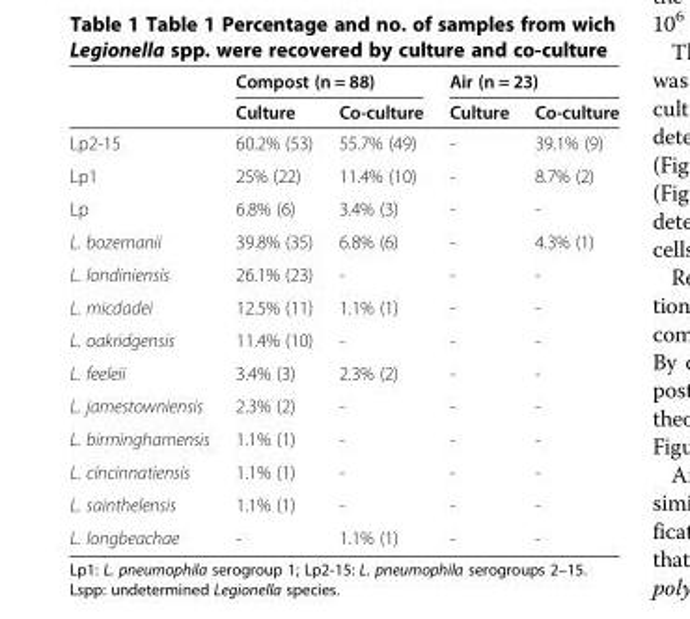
<table><thead><tr><td rowspan="2"></td><td colspan="2">Compost (n = 88)</td><td colspan="2">Air (n = 23)</td></tr><tr><td>Culture</td><td>Co-culture</td><td>Culture</td><td>Co-culture</td></tr></thead><tbody><tr><td>Lp2-15</td><td>60.2% (53)</td><td>55.7% (49)</td><td>-</td><td>39.1% (9)</td></tr><tr><td>Lp1</td><td>25% (22)</td><td>11.4% (10)</td><td>-</td><td>8.7% (2)</td></tr><tr><td>Lp</td><td>6.8% (6)</td><td>3.4% (3)</td><td>-</td><td>-</td></tr><tr><td>L. bozemanii</td><td>39.8% (35)</td><td>6.8% (6)</td><td>-</td><td>4.3% (1)</td></tr><tr><td>L. londiniensis</td><td>26.1% (23)</td><td>-</td><td>-</td><td>-</td></tr><tr><td>L. micdadei</td><td>12.5% (11)</td><td>1.1% (1)</td><td>-</td><td>-</td></tr><tr><td>L. oakridgensis</td><td>11.4% (10)</td><td>-</td><td>-</td><td>-</td></tr><tr><td>L. feeleii</td><td>3.4% (3)</td><td>2.3% (2)</td><td>-</td><td>-</td></tr><tr><td>L. jamestowniensis</td><td>2.3% (2)</td><td>-</td><td>-</td><td>-</td></tr><tr><td>L. birminghamensis</td><td>1.1% (1)</td><td>-</td><td>-</td><td>-</td></tr><tr><td>L. cincinnatiensis</td><td>1.1% (1)</td><td>-</td><td>-</td><td>-</td></tr><tr><td>L. sainthelensis</td><td>1.1% (1)</td><td>-</td><td>-</td><td>-</td></tr><tr><td>L. longbeachae</td><td>-</td><td>1.1% (1)</td><td>-</td><td>-</td></tr></tbody></table>